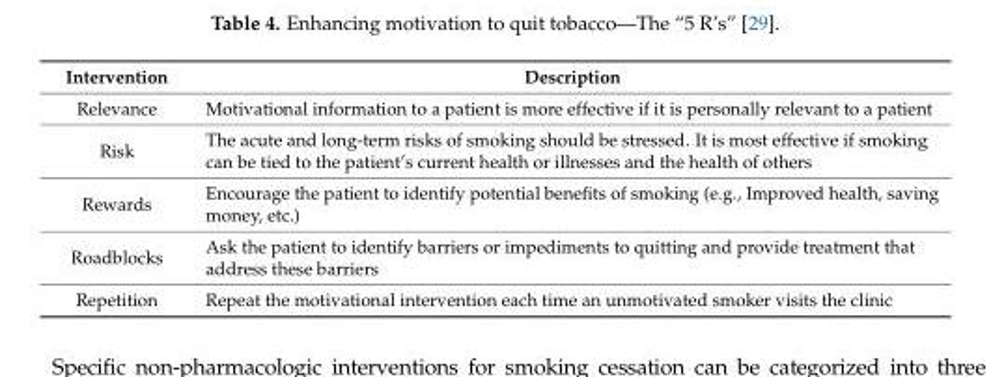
<table><thead><tr><td>Intervention</td><td>Description</td></tr></thead><tbody><tr><td>Relevance</td><td>Motivational information to a patient is more effective if it is personally relevant to a patient</td></tr><tr><td>Risk</td><td>The acute and long-term risks of smoking should be stressed. It is most effective if smoking can be tied to the patient’s current health or illnesses and the health of others</td></tr><tr><td>Rewards</td><td>Encourage the patient to identify potential benefits of smoking (e.g., Improved health, saving money, etc.)</td></tr><tr><td>Roadblocks</td><td>Ask the patient to identify barriers or impediments to quitting and provide treatment that address these barriers</td></tr><tr><td>Repetition</td><td>Repeat the motivational intervention each time an unmotivated smoker visits the clinic</td></tr></tbody></table>